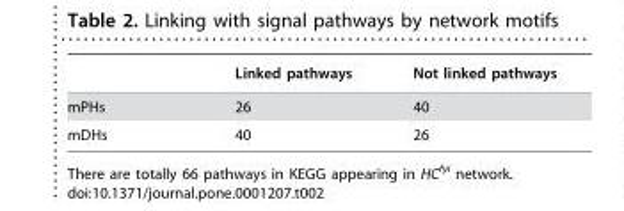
<table><thead><tr><td></td><td>Linked pathways</td><td>Not linked pathways</td></tr></thead><tbody><tr><td>mPHs</td><td>26</td><td>40</td></tr><tr><td>mDHs</td><td>40</td><td>26</td></tr></tbody></table>